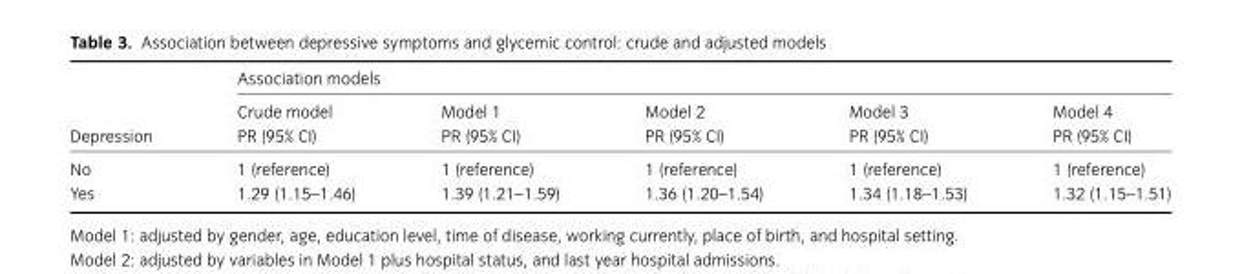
<table><thead><tr><td rowspan="3">Depression</td><td colspan="5">Association models</td></tr><tr><td rowspan="2">Crude model PR (95% CI)</td><td rowspan="2">Model 1 PR (95% CI)</td><td rowspan="2">Model 2 PR (95% CI)</td><td rowspan="2">Model 3 PR (95% CI)</td><td rowspan="2">Model 4 PR (95% CI)</td></tr><tr></tr></thead><tbody><tr><td>No</td><td>1 (reference)</td><td>1 (reference)</td><td>1 (reference)</td><td>1 (reference)</td><td>1 (reference)</td></tr><tr><td>Yes</td><td>1.29 (1.15–1.46)</td><td>1.39 (1.21–1.59)</td><td>1.36 (1.20–1.54)</td><td>1.34 (1.18–1.53)</td><td>1.32 (1.15–1.51)</td></tr></tbody></table>